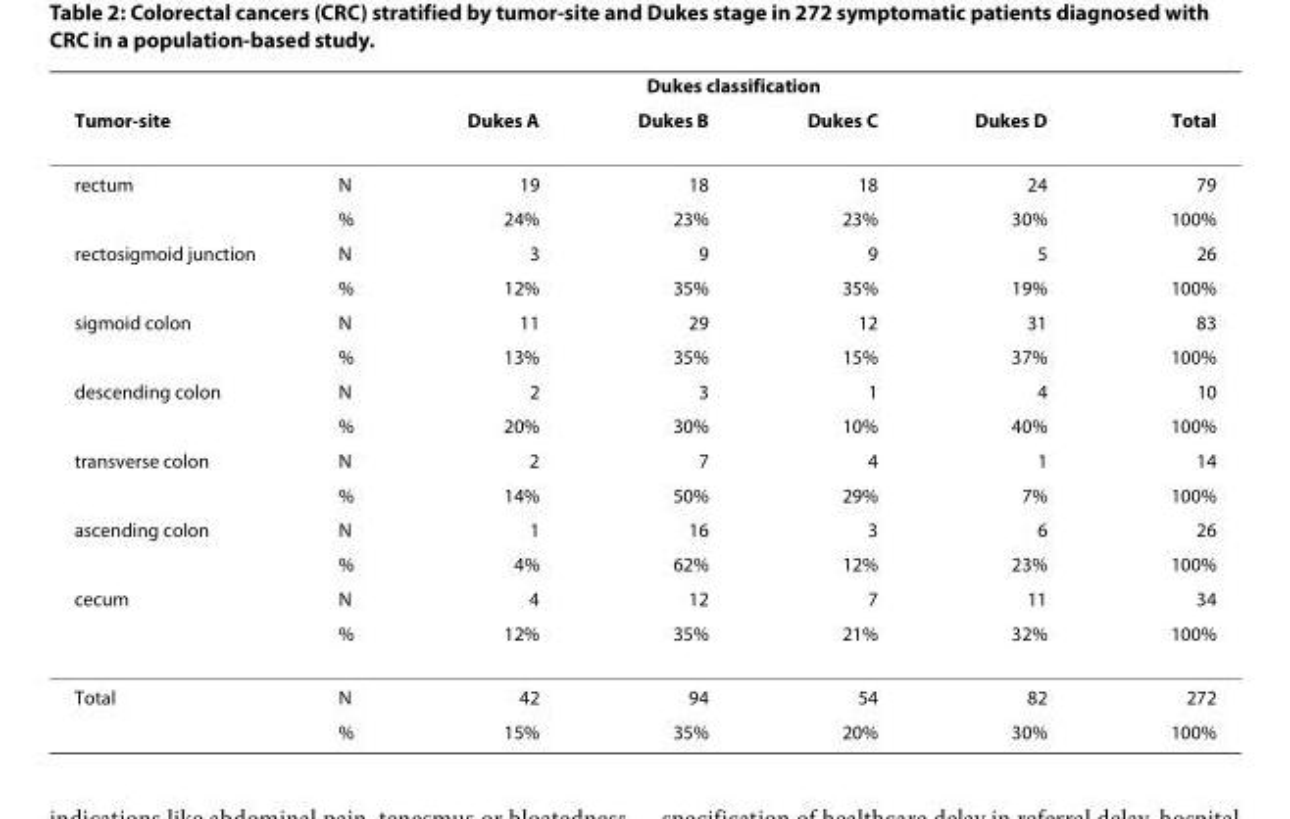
<table><thead><tr><td></td><td></td><td colspan="4">Dukes classification</td><td rowspan="2">Total</td></tr><tr><td colspan="2">Tumor-site</td><td>Dukes A</td><td>Dukes B</td><td>Dukes C</td><td>Dukes D</td></tr></thead><tbody><tr><td rowspan="2">rectum</td><td>N</td><td>19</td><td>18</td><td>18</td><td>24</td><td>79</td></tr><tr><td>%</td><td>24%</td><td>23%</td><td>23%</td><td>30%</td><td>100%</td></tr><tr><td rowspan="2">rectosigmoid junction</td><td>N</td><td>3</td><td>9</td><td>9</td><td>5</td><td>26</td></tr><tr><td>%</td><td>12%</td><td>35%</td><td>35%</td><td>19%</td><td>100%</td></tr><tr><td rowspan="2">sigmoid colon</td><td>N</td><td>11</td><td>29</td><td>12</td><td>31</td><td>83</td></tr><tr><td>%</td><td>13%</td><td>35%</td><td>15%</td><td>37%</td><td>100%</td></tr><tr><td rowspan="2">descending colon</td><td>N</td><td>2</td><td>3</td><td>1</td><td>4</td><td>10</td></tr><tr><td>%</td><td>20%</td><td>30%</td><td>10%</td><td>40%</td><td>100%</td></tr><tr><td rowspan="2">transverse colon</td><td>N</td><td>2</td><td>7</td><td>4</td><td>1</td><td>14</td></tr><tr><td>%</td><td>14%</td><td>50%</td><td>29%</td><td>7%</td><td>100%</td></tr><tr><td rowspan="2">ascending colon</td><td>N</td><td>1</td><td>16</td><td>3</td><td>6</td><td>26</td></tr><tr><td>%</td><td>4%</td><td>62%</td><td>12%</td><td>23%</td><td>100%</td></tr><tr><td rowspan="2">cecum</td><td>N</td><td>4</td><td>12</td><td>7</td><td>11</td><td>34</td></tr><tr><td>%</td><td>12%</td><td>35%</td><td>21%</td><td>32%</td><td>100%</td></tr><tr><td rowspan="2">Total</td><td>N</td><td>42</td><td>94</td><td>54</td><td>82</td><td>272</td></tr><tr><td>%</td><td>15%</td><td>35%</td><td>20%</td><td>30%</td><td>100%</td></tr></tbody></table>